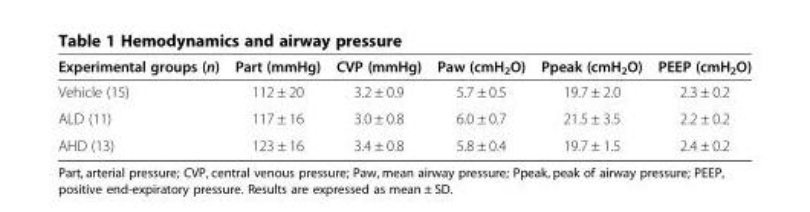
<table><thead><tr><td>Experimental groups (n)</td><td>Part (mmHg)</td><td>CVP (mmHg)</td><td>Paw (cmH<sub>2</sub>O)</td><td>Ppeak (cmH<sub>2</sub>O)</td><td>PEEP (cmH<sub>2</sub>O)</td></tr></thead><tbody><tr><td>Vehicle (15)</td><td>112 ± 20</td><td>3.2 ± 0.9</td><td>5.7 ± 0.5</td><td>19.7 ± 2.0</td><td>2.3 ± 0.2</td></tr><tr><td>ALD (11)</td><td>117 ± 16</td><td>3.0 ± 0.8</td><td>6.0 ± 0.7</td><td>21.5 ± 3.5</td><td>2.2 ± 0.2</td></tr><tr><td>AHD (13)</td><td>123 ± 16</td><td>3.4 ± 0.8</td><td>5.8 ± 0.4</td><td>19.7 ± 1.5</td><td>2.4 ± 0.2</td></tr></tbody></table>